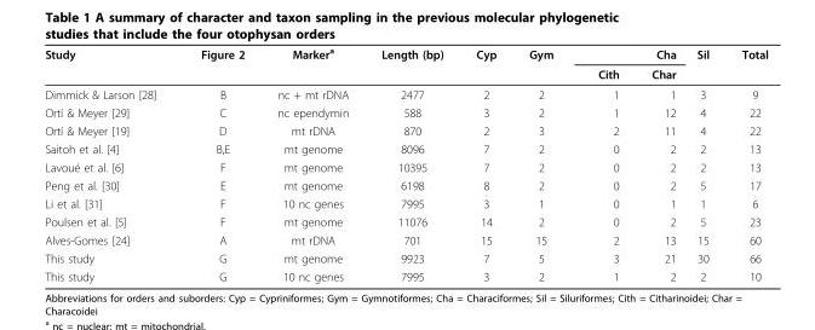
<table><thead><tr><td rowspan="2">Study</td><td rowspan="2">Figure 2</td><td rowspan="2">Marker<sup>a</sup></td><td rowspan="2">Length (bp)</td><td rowspan="2">Cyp</td><td rowspan="2">Gym</td><td colspan="2">Cha</td><td rowspan="2">Sil</td><td rowspan="2">Total</td></tr><tr><td>Cith</td><td>Char</td></tr></thead><tbody><tr><td>Dimmick &amp; Larson [28]</td><td>B</td><td>nc + mt rDNA</td><td>2477</td><td>2</td><td>2</td><td>1</td><td>1</td><td>3</td><td>9</td></tr><tr><td>Ortí &amp; Meyer [29]</td><td>C</td><td>nc ependymin</td><td>588</td><td>3</td><td>2</td><td>1</td><td>12</td><td>4</td><td>22</td></tr><tr><td>Ortí &amp; Meyer [19]</td><td>D</td><td>mt rDNA</td><td>870</td><td>2</td><td>3</td><td>2</td><td>11</td><td>4</td><td>22</td></tr><tr><td>Saitoh et al. [4]</td><td>B,E</td><td>mt genome</td><td>8096</td><td>7</td><td>2</td><td>0</td><td>2</td><td>2</td><td>13</td></tr><tr><td>Lavoué et al. [6]</td><td>F</td><td>mt genome</td><td>10395</td><td>7</td><td>2</td><td>0</td><td>2</td><td>2</td><td>13</td></tr><tr><td>Peng et al. [30]</td><td>E</td><td>mt genome</td><td>6198</td><td>8</td><td>2</td><td>0</td><td>2</td><td>5</td><td>17</td></tr><tr><td>Li et al. [31]</td><td>F</td><td>10 nc genes</td><td>7995</td><td>3</td><td>1</td><td>0</td><td>1</td><td>1</td><td>6</td></tr><tr><td>Poulsen et al. [5]</td><td>F</td><td>mt genome</td><td>11076</td><td>14</td><td>2</td><td>0</td><td>2</td><td>5</td><td>23</td></tr><tr><td>Alves-Gomes [24]</td><td>A</td><td>mt rDNA</td><td>701</td><td>15</td><td>15</td><td>2</td><td>13</td><td>15</td><td>60</td></tr><tr><td>This study</td><td>G</td><td>mt genome</td><td>9923</td><td>7</td><td>5</td><td>3</td><td>21</td><td>30</td><td>66</td></tr><tr><td>This study</td><td>G</td><td>10 nc genes</td><td>7995</td><td>3</td><td>2</td><td>1</td><td>2</td><td>2</td><td>10</td></tr></tbody></table>